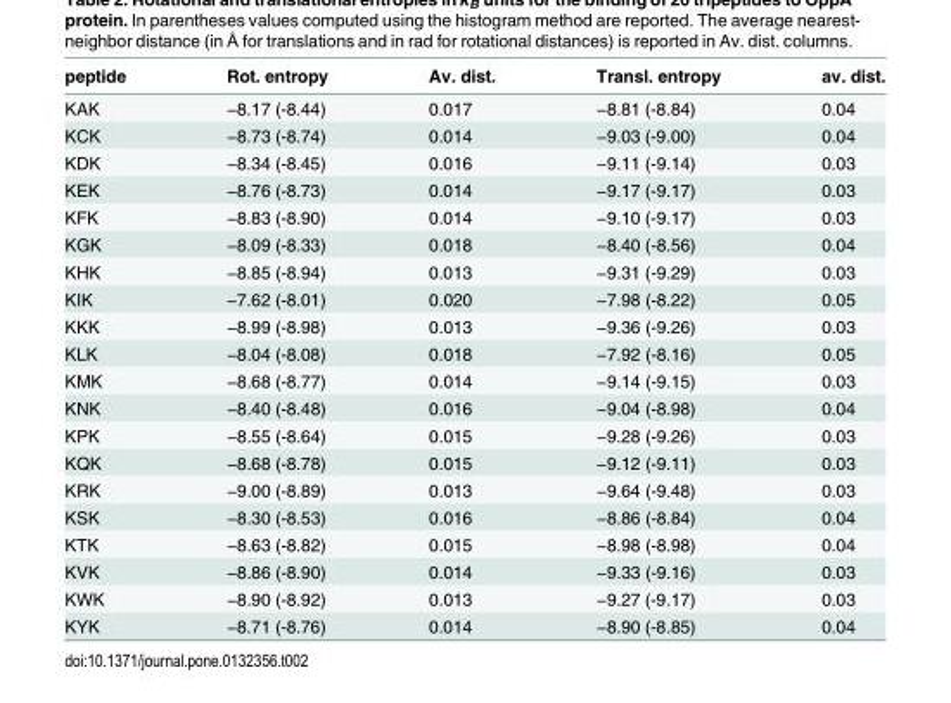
<table><thead><tr><td>peptide</td><td>Rot. entropy</td><td>Av. dist.</td><td>Transl. entropy</td><td>av. dist.</td></tr></thead><tbody><tr><td>KAK</td><td>−8.17 (-8.44)</td><td>0.017</td><td>−8.81 (-8.84)</td><td>0.04</td></tr><tr><td>KCK</td><td>−8.73 (-8.74)</td><td>0.014</td><td>−9.03 (-9.00)</td><td>0.04</td></tr><tr><td>KDK</td><td>−8.34 (-8.45)</td><td>0.016</td><td>−9.11 (-9.14)</td><td>0.03</td></tr><tr><td>KEK</td><td>−8.76 (-8.73)</td><td>0.014</td><td>−9.17 (-9.17)</td><td>0.03</td></tr><tr><td>KFK</td><td>−8.83 (-8.90)</td><td>0.014</td><td>−9.10 (-9.17)</td><td>0.03</td></tr><tr><td>KGK</td><td>−8.09 (-8.33)</td><td>0.018</td><td>−8.40 (-8.56)</td><td>0.04</td></tr><tr><td>KHK</td><td>−8.85 (-8.94)</td><td>0.013</td><td>−9.31 (-9.29)</td><td>0.03</td></tr><tr><td>KIK</td><td>−7.62 (-8.01)</td><td>0.020</td><td>−7.98 (-8.22)</td><td>0.05</td></tr><tr><td>KKK</td><td>−8.99 (-8.98)</td><td>0.013</td><td>−9.36 (-9.26)</td><td>0.03</td></tr><tr><td>KLK</td><td>−8.04 (-8.08)</td><td>0.018</td><td>−7.92 (-8.16)</td><td>0.05</td></tr><tr><td>KMK</td><td>−8.68 (-8.77)</td><td>0.014</td><td>−9.14 (-9.15)</td><td>0.03</td></tr><tr><td>KNK</td><td>−8.40 (-8.48)</td><td>0.016</td><td>−9.04 (-8.98)</td><td>0.04</td></tr><tr><td>KPK</td><td>−8.55 (-8.64)</td><td>0.015</td><td>−9.28 (-9.26)</td><td>0.03</td></tr><tr><td>KQK</td><td>−8.68 (-8.78)</td><td>0.015</td><td>−9.12 (-9.11)</td><td>0.03</td></tr><tr><td>KRK</td><td>−9.00 (-8.89)</td><td>0.013</td><td>−9.64 (-9.48)</td><td>0.03</td></tr><tr><td>KSK</td><td>−8.30 (-8.53)</td><td>0.016</td><td>−8.86 (-8.84)</td><td>0.04</td></tr><tr><td>KTK</td><td>−8.63 (-8.82)</td><td>0.015</td><td>−8.98 (-8.98)</td><td>0.04</td></tr><tr><td>KVK</td><td>−8.86 (-8.90)</td><td>0.014</td><td>−9.33 (-9.16)</td><td>0.03</td></tr><tr><td>KWK</td><td>−8.90 (-8.92)</td><td>0.013</td><td>−9.27 (-9.17)</td><td>0.03</td></tr><tr><td>KYK</td><td>−8.71 (-8.76)</td><td>0.014</td><td>−8.90 (-8.85)</td><td>0.04</td></tr></tbody></table>